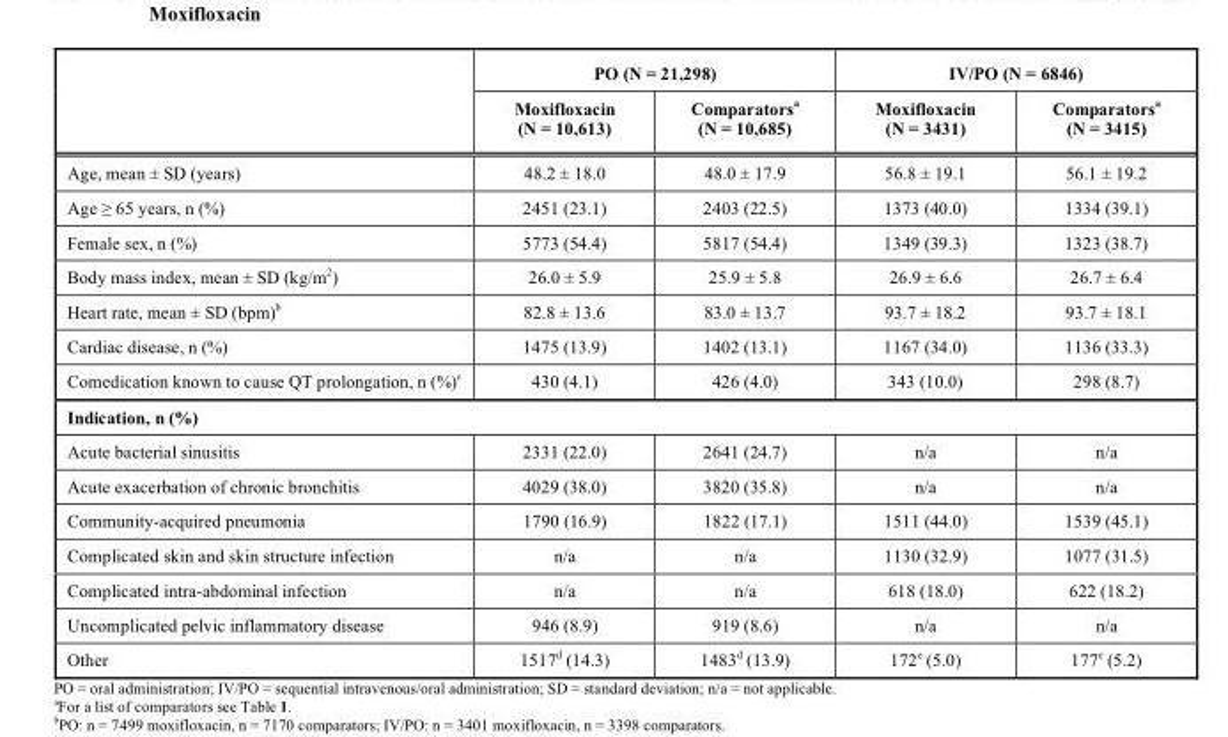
<table><thead><tr><td rowspan="2"></td><td colspan="2">PO (N = 21,298)</td><td colspan="2">IV/PO (N = 6846)</td></tr><tr><td>Moxifloxacin (N = 10,613)</td><td>Comparators<sup>a</sup> (N = 10,685)</td><td>Moxifloxacin (N = 3431)</td><td>Comparators<sup>a</sup> (N = 3415)</td></tr></thead><tbody><tr><td>Age, mean ± SD (years)</td><td>48.2 ± 18.0</td><td>48.0 ± 17.9</td><td>56.8 ± 19.1</td><td>56.1 ± 19.2</td></tr><tr><td>Age ≥ 65 years, n (%)</td><td>2451 (23.1)</td><td>2403 (22.5)</td><td>1373 (40.0)</td><td>1334 (39.1)</td></tr><tr><td>Female sex, n (%)</td><td>5773 (54.4)</td><td>5817 (54.4)</td><td>1349 (39.3)</td><td>1323 (38.7)</td></tr><tr><td>Body mass index, mean ± SD (kg/m<sup>2</sup>)</td><td>26.0 ± 5.9</td><td>25.9 ± 5.8</td><td>26.9 ± 6.6</td><td>26.7 ± 6.4</td></tr><tr><td>Heart rate, mean ± SD (bpm)<sup>b</sup></td><td>82.8 ± 13.6</td><td>83.0 ± 13.7</td><td>93.7 ± 18.2</td><td>93.7 ± 18.1</td></tr><tr><td>Cardiac disease, n (%)</td><td>1475 (13.9)</td><td>1402 (13.1)</td><td>1167 (34.0)</td><td>1136 (33.3)</td></tr><tr><td>Comedication known to cause QT prolongation, n (%)<sup>c</sup></td><td>430 (4.1)</td><td>426 (4.0)</td><td>343 (10.0)</td><td>298 (8.7)</td></tr><tr><td colspan="5">Indication, n (%)</td></tr><tr><td>Acute bacterial sinusitis</td><td>2331 (22.0)</td><td>2641 (24.7)</td><td>n/a</td><td>n/a</td></tr><tr><td>Acute exacerbation of chronic bronchitis</td><td>4029 (38.0)</td><td>3820 (35.8)</td><td>n/a</td><td>n/a</td></tr><tr><td>Community-acquired pneumonia</td><td>1790 (16.9)</td><td>1822 (17.1)</td><td>1511 (44.0)</td><td>1539 (45.1)</td></tr><tr><td>Complicated skin and skin structure infection</td><td>n/a</td><td>n/a</td><td>1130 (32.9)</td><td>1077 (31.5)</td></tr><tr><td>Complicated intra-abdominal infection</td><td>n/a</td><td>n/a</td><td>618 (18.0)</td><td>622 (18.2)</td></tr><tr><td>Uncomplicated pelvic inflammatory disease</td><td>946 (8.9)</td><td>919 (8.6)</td><td>n/a</td><td>n/a</td></tr><tr><td>Other</td><td>1517<sup>d</sup> (14.3)</td><td>1483<sup>d</sup> (13.9)</td><td>172<sup>e</sup> (5.0)</td><td>177<sup>e</sup> (5.2)</td></tr></tbody></table>